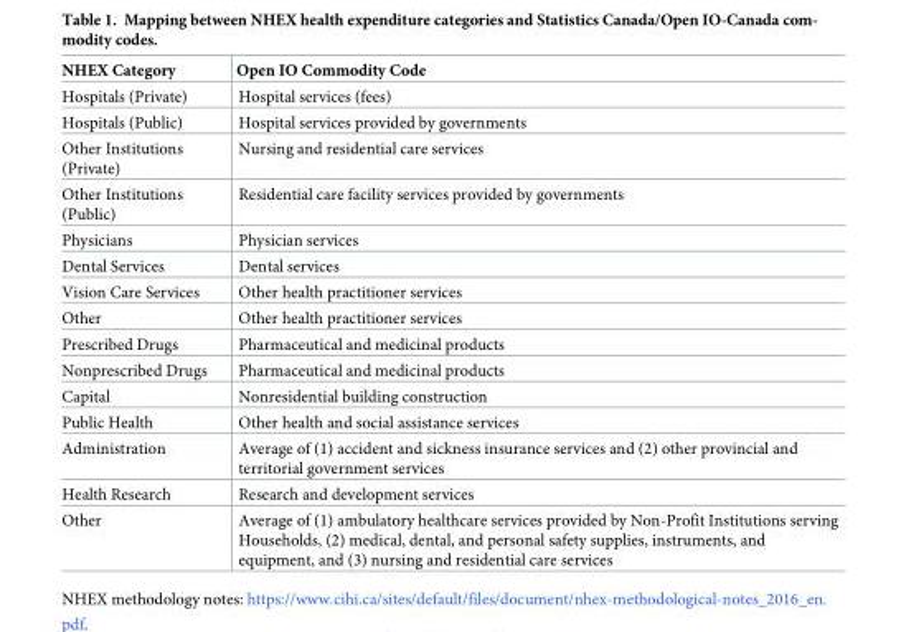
<table><thead><tr><td>NHEX Category</td><td>Open IO Commodity Code</td></tr></thead><tbody><tr><td>Hospitals (Private)</td><td>Hospital services (fees)</td></tr><tr><td>Hospitals (Public)</td><td>Hospital services provided by governments</td></tr><tr><td>Other Institutions (Private)</td><td>Nursing and residential care services</td></tr><tr><td>Other Institutions (Public)</td><td>Residential care facility services provided by governments</td></tr><tr><td>Physicians</td><td>Physician services</td></tr><tr><td>Dental Services</td><td>Dental services</td></tr><tr><td>Vision Care Services</td><td>Other health practitioner services</td></tr><tr><td>Other</td><td>Other health practitioner services</td></tr><tr><td>Prescribed Drugs</td><td>Pharmaceutical and medicinal products</td></tr><tr><td>Nonprescribed Drugs</td><td>Pharmaceutical and medicinal products</td></tr><tr><td>Capital</td><td>Nonresidential building construction</td></tr><tr><td>Public Health</td><td>Other health and social assistance services</td></tr><tr><td>Administration</td><td>Average of (1) accident and sickness insurance services and (2) other provincial and territorial government services</td></tr><tr><td>Health Research</td><td>Research and development services</td></tr><tr><td>Other</td><td>Average of (1) ambulatory healthcare services provided by Non-Profit Institutions serving Households, (2) medical, dental, and personal safety supplies, instruments, and equipment, and (3) nursing and residential care services</td></tr></tbody></table>